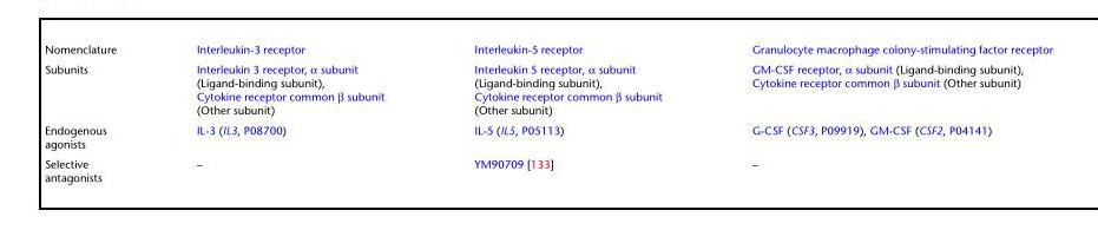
<table><tbody><tr><td>Nomenclature</td><td>Interleukin-3 receptor</td><td>Interleukin-5 receptor</td><td>Granulocyte macrophage colony-stimulating factor receptor</td></tr><tr><td>Subunits</td><td>Interleukin 3 receptor, α subunit (Ligand-binding subunit), Cytokine receptor common β subunit (Other subunit)</td><td>Interleukin 5 receptor, α subunit (Ligand-binding subunit), Cytokine receptor common β subunit (Other subunit)</td><td>GM-CSF receptor, α subunit (Ligand-binding subunit), Cytokine receptor common β subunit (Other subunit)</td></tr><tr><td>Endogenous agonists</td><td>IL-3 (IL3, P08700)</td><td>IL-5 (IL5, P05113)</td><td>G-CSF (CSF3, P09919), GM-CSF (CSF2, P04141)</td></tr><tr><td>Selective antagonists</td><td>–</td><td>YM90709 [133]</td><td>–</td></tr></tbody></table>